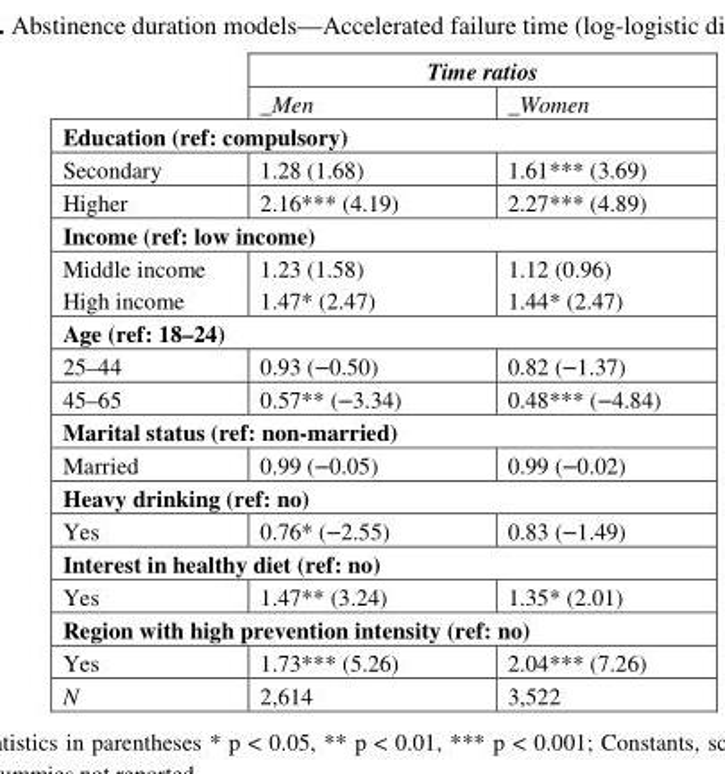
<table><thead><tr><td rowspan="2"></td><td colspan="2">Time ratios</td></tr><tr><td>_Men</td><td>_Women</td></tr></thead><tbody><tr><td colspan="3">Education (ref: compulsory)</td></tr><tr><td>Secondary</td><td>1.28 (1.68)</td><td>1.61*** (3.69)</td></tr><tr><td>Higher</td><td>2.16*** (4.19)</td><td>2.27*** (4.89)</td></tr><tr><td colspan="3">Income (ref: low income)</td></tr><tr><td>Middle income High income</td><td>1.23 (1.58) 1.47* (2.47)</td><td>1.12 (0.96) 1.44* (2.47)</td></tr><tr><td colspan="3">Age (ref: 18–24)</td></tr><tr><td>25–44</td><td>0.93 (−0.50)</td><td>0.82 (−1.37)</td></tr><tr><td>45–65</td><td>0.57** (−3.34)</td><td>0.48*** (−4.84)</td></tr><tr><td colspan="3">Marital status (ref: non-married)</td></tr><tr><td>Married</td><td>0.99 (−0.05)</td><td>0.99 (−0.02)</td></tr><tr><td colspan="3">Heavy drinking (ref: no)</td></tr><tr><td>Yes</td><td>0.76* (−2.55)</td><td>0.83 (−1.49)</td></tr><tr><td colspan="3">Interest in healthy diet (ref: no)</td></tr><tr><td>Yes</td><td>1.47** (3.24)</td><td>1.35* (2.01)</td></tr><tr><td colspan="3">Region with high prevention intensity (ref: no)</td></tr><tr><td>Yes</td><td>1.73*** (5.26)</td><td>2.04*** (7.26)</td></tr><tr><td>N</td><td>2,614</td><td>3,522</td></tr></tbody></table>